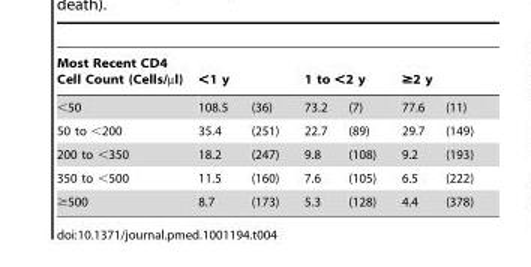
<table><thead><tr><td rowspan="2">Most Recent CD4 Cell Count (Cells/µl) &lt;50</td><td colspan="2">&lt;1 y</td><td colspan="2">1 to &lt;2 y</td><td colspan="2">≥2 y</td></tr><tr><td>108.5</td><td>(36)</td><td>73.2</td><td>(7)</td><td>77.6</td><td>(11)</td></tr></thead><tbody><tr><td>50 to &lt;200</td><td>35.4</td><td>(251)</td><td>22.7</td><td>(89)</td><td>29.7</td><td>(149)</td></tr><tr><td>200 to &lt;350</td><td>18.2</td><td>(247)</td><td>9.8</td><td>(108)</td><td>9.2</td><td>(193)</td></tr><tr><td>350 to &lt;500</td><td>11.5</td><td>(160)</td><td>7.6</td><td>(105)</td><td>6.5</td><td>(222)</td></tr><tr><td>≥500</td><td>8.7</td><td>(173)</td><td>5.3</td><td>(128)</td><td>4.4</td><td>(378)</td></tr></tbody></table>